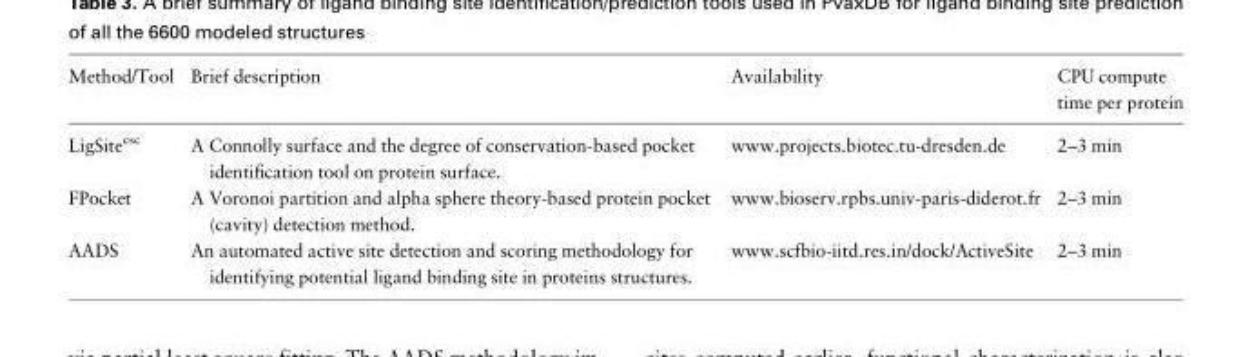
<table><thead><tr><td>Method/Tool</td><td>Brief description</td><td>Availability</td><td>CPU compute time per protein</td></tr></thead><tbody><tr><td>LigSite<sup>csc</sup></td><td>A Connolly surface and the degree of conservation-based pocket identification tool on protein surface.</td><td>www.projects.biotec.tu-dresden.de</td><td>2–3 min</td></tr><tr><td>FPocket</td><td>A Voronoi partition and alpha sphere theory-based protein pocket (cavity) detection method.</td><td>www.bioserv.rpbs.univ-paris-diderot.fr</td><td>2–3 min</td></tr><tr><td>AADS</td><td>An automated active site detection and scoring methodology for identifying potential ligand binding site in proteins structures.</td><td>www.scfbio-iitd.res.in/dock/ActiveSite</td><td>2–3 min</td></tr></tbody></table>